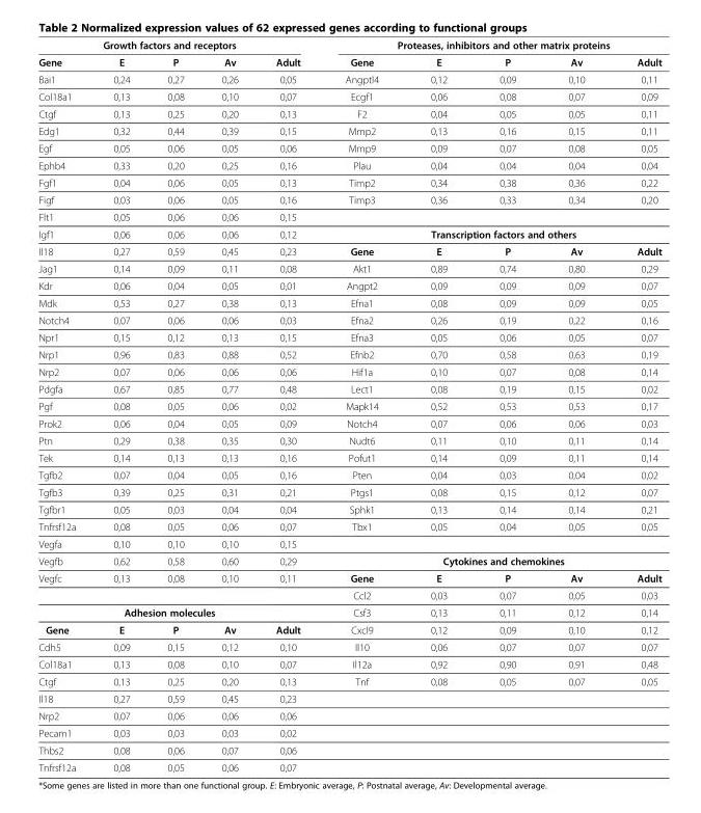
<table><thead><tr><td colspan="5">Growth factors and receptors</td><td colspan="5">Proteases, inhibitors and other matrix proteins</td></tr><tr><td>Gene</td><td>E</td><td>P</td><td>Av</td><td>Adult</td><td>Gene</td><td>E</td><td>P</td><td>Av</td><td>Adult</td></tr></thead><tbody><tr><td>Bai1</td><td>0,24</td><td>0,27</td><td>0,26</td><td>0,05</td><td>Angptl4</td><td>0,12</td><td>0,09</td><td>0,10</td><td>0,11</td></tr><tr><td>Col18a1</td><td>0,13</td><td>0,08</td><td>0,10</td><td>0,07</td><td>Ecgf1</td><td>0,06</td><td>0,08</td><td>0,07</td><td>0,09</td></tr><tr><td>Ctgf</td><td>0,13</td><td>0,25</td><td>0,20</td><td>0,13</td><td>F2</td><td>0,04</td><td>0,05</td><td>0,05</td><td>0,11</td></tr><tr><td>Edg1</td><td>0,32</td><td>0,44</td><td>0,39</td><td>0,15</td><td>Mmp2</td><td>0,13</td><td>0,16</td><td>0,15</td><td>0,11</td></tr><tr><td>Egf</td><td>0,05</td><td>0,06</td><td>0,05</td><td>0,06</td><td>Mmp9</td><td>0,09</td><td>0,07</td><td>0,08</td><td>0,05</td></tr><tr><td>Ephb4</td><td>0,33</td><td>0,20</td><td>0,25</td><td>0,16</td><td>Plau</td><td>0,04</td><td>0,04</td><td>0,04</td><td>0,04</td></tr><tr><td>Fgf1</td><td>0,04</td><td>0,06</td><td>0,05</td><td>0,13</td><td>Timp2</td><td>0,34</td><td>0,38</td><td>0,36</td><td>0,22</td></tr><tr><td>Figf</td><td>0,03</td><td>0,06</td><td>0,05</td><td>0,16</td><td>Timp3</td><td>0,36</td><td>0,33</td><td>0,34</td><td>0,20</td></tr><tr><td>Flt1</td><td>0,05</td><td>0,06</td><td>0,06</td><td>0,15</td><td></td><td></td><td></td><td></td><td></td></tr><tr><td>Igf1</td><td>0,06</td><td>0,06</td><td>0,06</td><td>0,12</td><td colspan="5">Transcription factors and others</td></tr><tr><td>Il18</td><td>0,27</td><td>0,59</td><td>0,45</td><td>0,23</td><td>Gene</td><td>E</td><td>P</td><td>Av</td><td>Adult</td></tr><tr><td>Jag1</td><td>0,14</td><td>0,09</td><td>0,11</td><td>0,08</td><td>Akt1</td><td>0,89</td><td>0,74</td><td>0,80</td><td>0,29</td></tr><tr><td>Kdr</td><td>0,06</td><td>0,04</td><td>0,05</td><td>0,01</td><td>Angpt2</td><td>0,09</td><td>0,09</td><td>0,09</td><td>0,07</td></tr><tr><td>Mdk</td><td>0,53</td><td>0,27</td><td>0,38</td><td>0,13</td><td>Efna1</td><td>0,08</td><td>0,09</td><td>0,09</td><td>0,05</td></tr><tr><td>Notch4</td><td>0,07</td><td>0,06</td><td>0,06</td><td>0,03</td><td>Efna2</td><td>0,26</td><td>0,19</td><td>0,22</td><td>0,16</td></tr><tr><td>Npr1</td><td>0,15</td><td>0,12</td><td>0,13</td><td>0,15</td><td>Efna3</td><td>0,05</td><td>0,06</td><td>0,05</td><td>0,07</td></tr><tr><td>Nrp1</td><td>0,96</td><td>0,83</td><td>0,88</td><td>0,52</td><td>Efnb2</td><td>0,70</td><td>0,58</td><td>0,63</td><td>0,19</td></tr><tr><td>Nrp2</td><td>0,07</td><td>0,06</td><td>0,06</td><td>0,06</td><td>Hif1a</td><td>0,10</td><td>0,07</td><td>0,08</td><td>0,14</td></tr><tr><td>Pdgfa</td><td>0,67</td><td>0,85</td><td>0,77</td><td>0,48</td><td>Lect1</td><td>0,08</td><td>0,19</td><td>0,15</td><td>0,02</td></tr><tr><td>Pgf</td><td>0,08</td><td>0,05</td><td>0,06</td><td>0,02</td><td>Mapk14</td><td>0,52</td><td>0,53</td><td>0,53</td><td>0,17</td></tr><tr><td>Prok2</td><td>0,06</td><td>0,04</td><td>0,05</td><td>0,09</td><td>Notch4</td><td>0,07</td><td>0,06</td><td>0,06</td><td>0,03</td></tr><tr><td>Ptn</td><td>0,29</td><td>0,38</td><td>0,35</td><td>0,30</td><td>Nudt6</td><td>0,11</td><td>0,10</td><td>0,11</td><td>0,14</td></tr><tr><td>Tek</td><td>0,14</td><td>0,13</td><td>0,13</td><td>0,16</td><td>Pofut1</td><td>0,14</td><td>0,09</td><td>0,11</td><td>0,14</td></tr><tr><td>Tgfb2</td><td>0,07</td><td>0,04</td><td>0,05</td><td>0,16</td><td>Pten</td><td>0,04</td><td>0,03</td><td>0,04</td><td>0,02</td></tr><tr><td>Tgfb3</td><td>0,39</td><td>0,25</td><td>0,31</td><td>0,21</td><td>Ptgs1</td><td>0,08</td><td>0,15</td><td>0,12</td><td>0,07</td></tr><tr><td>Tgfbr1</td><td>0,05</td><td>0,03</td><td>0,04</td><td>0,04</td><td>Sphk1</td><td>0,13</td><td>0,14</td><td>0,14</td><td>0,21</td></tr><tr><td>Tnfrsf12a</td><td>0,08</td><td>0,05</td><td>0,06</td><td>0,07</td><td>Tbx1</td><td>0,05</td><td>0,04</td><td>0,05</td><td>0,05</td></tr><tr><td>Vegfa</td><td>0,10</td><td>0,10</td><td>0,10</td><td>0,15</td><td></td><td></td><td></td><td></td><td></td></tr><tr><td>Vegfb</td><td>0,62</td><td>0,58</td><td>0,60</td><td>0,29</td><td colspan="5">Cytokines and chemokines</td></tr><tr><td rowspan="2">Vegfc</td><td>0,13</td><td>0,08</td><td>0,10</td><td>0,11</td><td>Gene</td><td>E</td><td>P</td><td>Av</td><td>Adult</td></tr><tr><td></td><td></td><td></td><td></td><td>Ccl2</td><td>0,03</td><td>0,07</td><td>0,05</td><td>0,03</td></tr><tr><td colspan="5">Adhesion molecules</td><td>Csf3</td><td>0,13</td><td>0,11</td><td>0,12</td><td>0,14</td></tr><tr><td>Gene</td><td>E</td><td>P</td><td>Av</td><td>Adult</td><td>Cxcl9</td><td>0,12</td><td>0,09</td><td>0,10</td><td>0,12</td></tr><tr><td>Cdh5</td><td>0,09</td><td>0,15</td><td>0,12</td><td>0,10</td><td>Il10</td><td>0,06</td><td>0,07</td><td>0,07</td><td>0,07</td></tr><tr><td>Col18a1</td><td>0,13</td><td>0,08</td><td>0,10</td><td>0,07</td><td>Il12a</td><td>0,92</td><td>0,90</td><td>0,91</td><td>0,48</td></tr><tr><td>Ctgf</td><td>0,13</td><td>0,25</td><td>0,20</td><td>0,13</td><td>Tnf</td><td>0,08</td><td>0,05</td><td>0,07</td><td>0,05</td></tr><tr><td>Il18</td><td>0,27</td><td>0,59</td><td>0,45</td><td>0,23</td><td></td><td></td><td></td><td></td><td></td></tr><tr><td>Nrp2</td><td>0,07</td><td>0,06</td><td>0,06</td><td>0,06</td><td></td><td></td><td></td><td></td><td></td></tr><tr><td>Pecam1</td><td>0,03</td><td>0,03</td><td>0,03</td><td>0,02</td><td></td><td></td><td></td><td></td><td></td></tr><tr><td>Thbs2</td><td>0,08</td><td>0,06</td><td>0,07</td><td>0,06</td><td></td><td></td><td></td><td></td><td></td></tr><tr><td>Tnfrsf12a</td><td>0,08</td><td>0,05</td><td>0,06</td><td>0,07</td><td></td><td></td><td></td><td></td><td></td></tr></tbody></table>